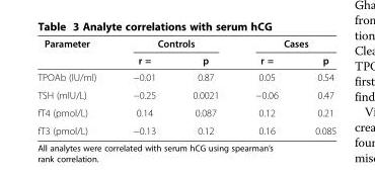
<table><thead><tr><td rowspan="2">Parameter</td><td colspan="2">Controls</td><td colspan="2">Cases</td></tr><tr><td>r =</td><td>p</td><td>r =</td><td>p</td></tr></thead><tbody><tr><td>TPOAb (IU/ml)</td><td>−0.01</td><td>0.87</td><td>0.05</td><td>0.54</td></tr><tr><td>TSH (mIU/L)</td><td>−0.25</td><td>0.0021</td><td>−0.06</td><td>0.47</td></tr><tr><td>fT4 (pmol/L)</td><td>0.14</td><td>0.087</td><td>0.12</td><td>0.21</td></tr><tr><td>fT3 (pmol/L)</td><td>−0.13</td><td>0.12</td><td>0.16</td><td>0.085</td></tr></tbody></table>